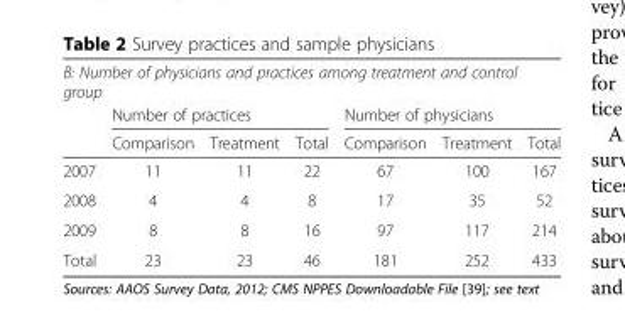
<table><thead><tr><td colspan="7">B: Number of physicians and practices among treatment and control group</td></tr><tr><td rowspan="2"></td><td colspan="3">Number of practices</td><td colspan="3">Number of physicians</td></tr><tr><td>Comparison</td><td>Treatment</td><td>Total</td><td>Comparison</td><td>Treatment</td><td>Total</td></tr></thead><tbody><tr><td>2007</td><td>11</td><td>11</td><td>22</td><td>67</td><td>100</td><td>167</td></tr><tr><td>2008</td><td>4</td><td>4</td><td>8</td><td>17</td><td>35</td><td>52</td></tr><tr><td>2009</td><td>8</td><td>8</td><td>16</td><td>97</td><td>117</td><td>214</td></tr><tr><td>Total</td><td>23</td><td>23</td><td>46</td><td>181</td><td>252</td><td>433</td></tr></tbody></table>